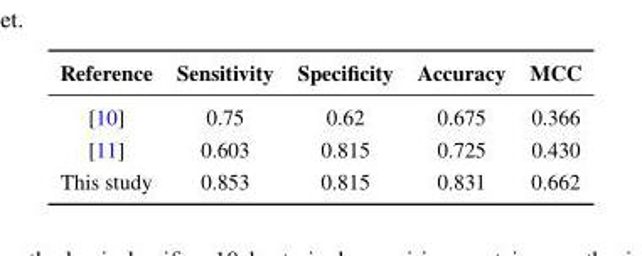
<table><thead><tr><td>Reference</td><td>Sensitivity</td><td>Specificity</td><td>Accuracy</td><td>MCC</td></tr></thead><tbody><tr><td>[10]</td><td>0.75</td><td>0.62</td><td>0.675</td><td>0.366</td></tr><tr><td>[11]</td><td>0.603</td><td>0.815</td><td>0.725</td><td>0.430</td></tr><tr><td>This study</td><td>0.853</td><td>0.815</td><td>0.831</td><td>0.662</td></tr></tbody></table>